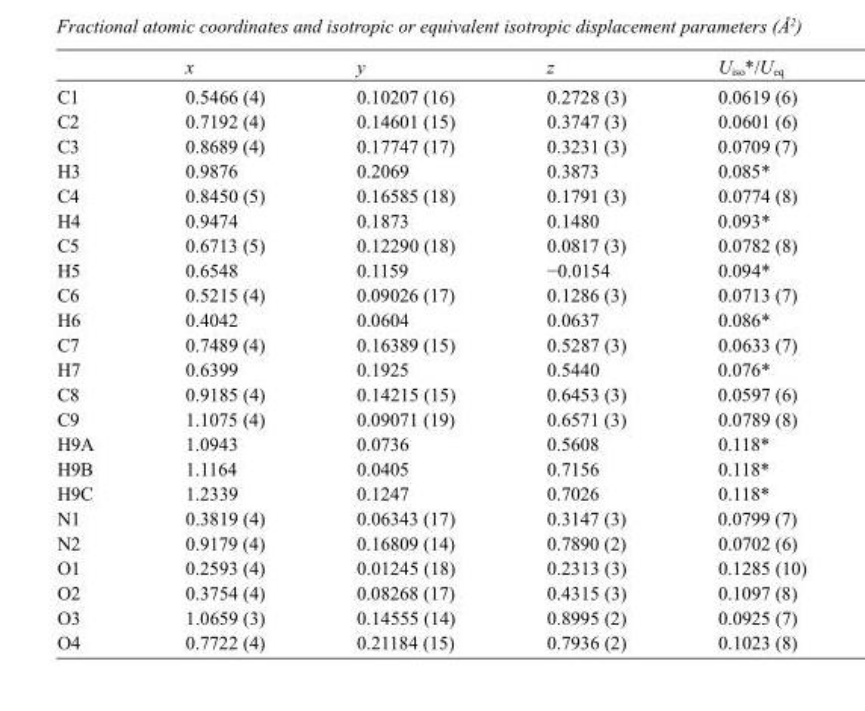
<table><thead><tr><td></td><td>x</td><td>y</td><td>z</td><td>U<sub>iso</sub>*/U<sub>eq</sub></td></tr></thead><tbody><tr><td>C1</td><td>0.5466 (4)</td><td>0.10207 (16)</td><td>0.2728 (3)</td><td>0.0619 (6)</td></tr><tr><td>C2</td><td>0.7192 (4)</td><td>0.14601 (15)</td><td>0.3747 (3)</td><td>0.0601 (6)</td></tr><tr><td>C3</td><td>0.8689 (4)</td><td>0.17747 (17)</td><td>0.3231 (3)</td><td>0.0709 (7)</td></tr><tr><td>H3</td><td>0.9876</td><td>0.2069</td><td>0.3873</td><td>0.085*</td></tr><tr><td>C4</td><td>0.8450 (5)</td><td>0.16585 (18)</td><td>0.1791 (3)</td><td>0.0774 (8)</td></tr><tr><td>H4</td><td>0.9474</td><td>0.1873</td><td>0.1480</td><td>0.093*</td></tr><tr><td>C5</td><td>0.6713 (5)</td><td>0.12290 (18)</td><td>0.0817 (3)</td><td>0.0782 (8)</td></tr><tr><td>H5</td><td>0.6548</td><td>0.1159</td><td>−0.0154</td><td>0.094*</td></tr><tr><td>C6</td><td>0.5215 (4)</td><td>0.09026 (17)</td><td>0.1286 (3)</td><td>0.0713 (7)</td></tr><tr><td>H6</td><td>0.4042</td><td>0.0604</td><td>0.0637</td><td>0.086*</td></tr><tr><td>C7</td><td>0.7489 (4)</td><td>0.16389 (15)</td><td>0.5287 (3)</td><td>0.0633 (7)</td></tr><tr><td>H7</td><td>0.6399</td><td>0.1925</td><td>0.5440</td><td>0.076*</td></tr><tr><td>C8</td><td>0.9185 (4)</td><td>0.14215 (15)</td><td>0.6453 (3)</td><td>0.0597 (6)</td></tr><tr><td>C9</td><td>1.1075 (4)</td><td>0.09071 (19)</td><td>0.6571 (3)</td><td>0.0789 (8)</td></tr><tr><td>H9A</td><td>1.0943</td><td>0.0736</td><td>0.5608</td><td>0.118*</td></tr><tr><td>H9B</td><td>1.1164</td><td>0.0405</td><td>0.7156</td><td>0.118*</td></tr><tr><td>H9C</td><td>1.2339</td><td>0.1247</td><td>0.7026</td><td>0.118*</td></tr><tr><td>N1</td><td>0.3819 (4)</td><td>0.06343 (17)</td><td>0.3147 (3)</td><td>0.0799 (7)</td></tr><tr><td>N2</td><td>0.9179 (4)</td><td>0.16809 (14)</td><td>0.7890 (2)</td><td>0.0702 (6)</td></tr><tr><td>O1</td><td>0.2593 (4)</td><td>0.01245 (18)</td><td>0.2313 (3)</td><td>0.1285 (10)</td></tr><tr><td>O2</td><td>0.3754 (4)</td><td>0.08268 (17)</td><td>0.4315 (3)</td><td>0.1097 (8)</td></tr><tr><td>O3</td><td>1.0659 (3)</td><td>0.14555 (14)</td><td>0.8995 (2)</td><td>0.0925 (7)</td></tr><tr><td>O4</td><td>0.7722 (4)</td><td>0.21184 (15)</td><td>0.7936 (2)</td><td>0.1023 (8)</td></tr></tbody></table>